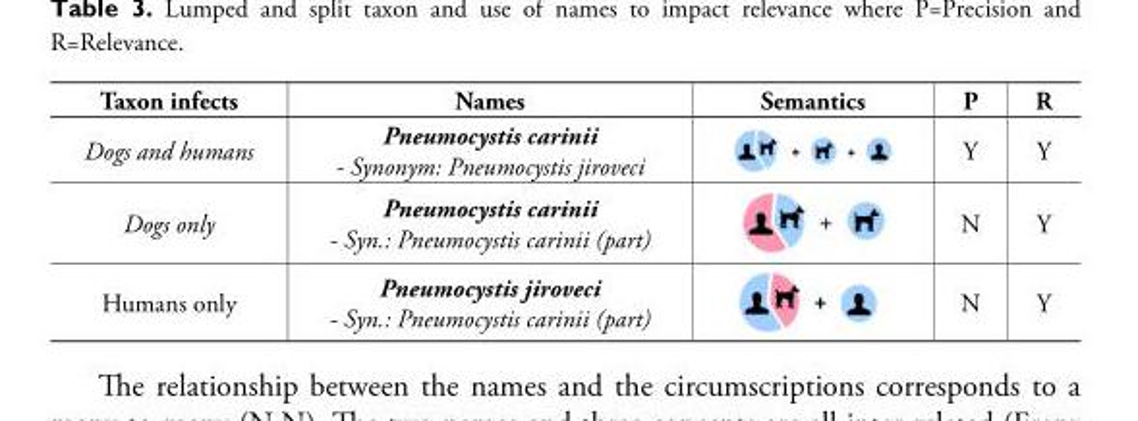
<table><thead><tr><td>Taxon infects</td><td>Names</td><td>Semantics</td><td>P</td><td>R</td></tr></thead><tbody><tr><td>Dogs and humans</td><td>Pneumocystis carinii - Synonym: Pneumocystis jiroveci</td><td></td><td>Y</td><td>Y</td></tr><tr><td>Dogs only</td><td>Pneumocystis carinii - Syn.: Pneumocystis carinii (part)</td><td></td><td>N</td><td>Y</td></tr><tr><td>Humans only</td><td>Pneumocystis jiroveci - Syn.: Pneumocystis carinii (part)</td><td></td><td>N</td><td>Y</td></tr></tbody></table>